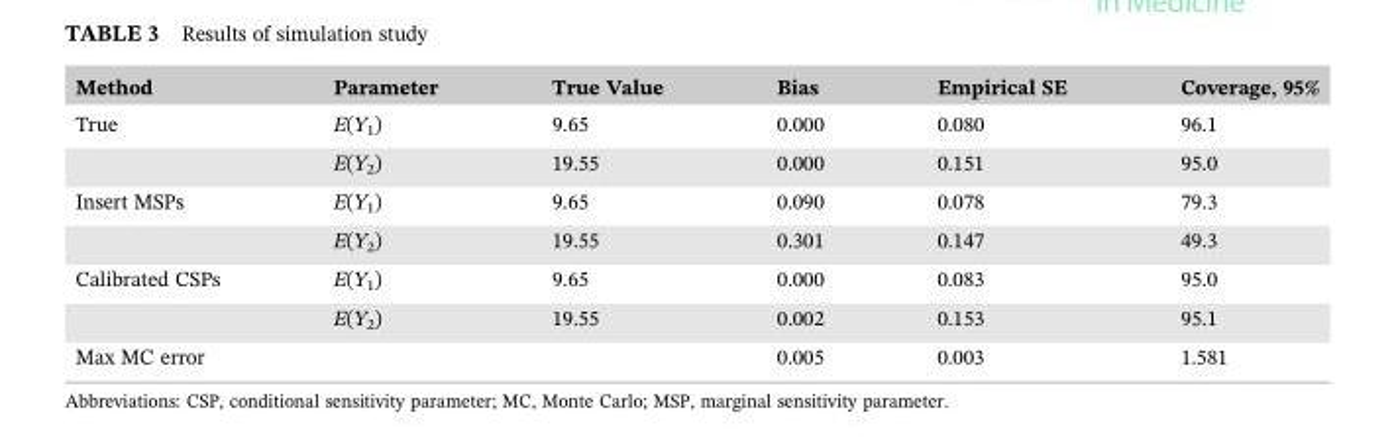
<table><thead><tr><td>Method</td><td>Parameter</td><td>True Value</td><td>Bias</td><td>Empirical SE</td><td>Coverage, 95%</td></tr></thead><tbody><tr><td rowspan="2">True</td><td>E(Y<sub>1</sub>)</td><td>9.65</td><td>0.000</td><td>0.080</td><td>96.1</td></tr><tr><td>E(Y<sub>2</sub>)</td><td>19.55</td><td>0.000</td><td>0.151</td><td>95.0</td></tr><tr><td rowspan="2">Insert MSPs</td><td>E(Y<sub>1</sub>)</td><td>9.65</td><td>0.090</td><td>0.078</td><td>79.3</td></tr><tr><td>E(Y<sub>2</sub>)</td><td>19.55</td><td>0.301</td><td>0.147</td><td>49.3</td></tr><tr><td rowspan="2">Calibrated CSPs</td><td>E(Y<sub>1</sub>)</td><td>9.65</td><td>0.000</td><td>0.083</td><td>95.0</td></tr><tr><td>E(Y<sub>2</sub>)</td><td>19.55</td><td>0.002</td><td>0.153</td><td>95.1</td></tr><tr><td>Max MC error</td><td></td><td></td><td>0.005</td><td>0.003</td><td>1.581</td></tr></tbody></table>